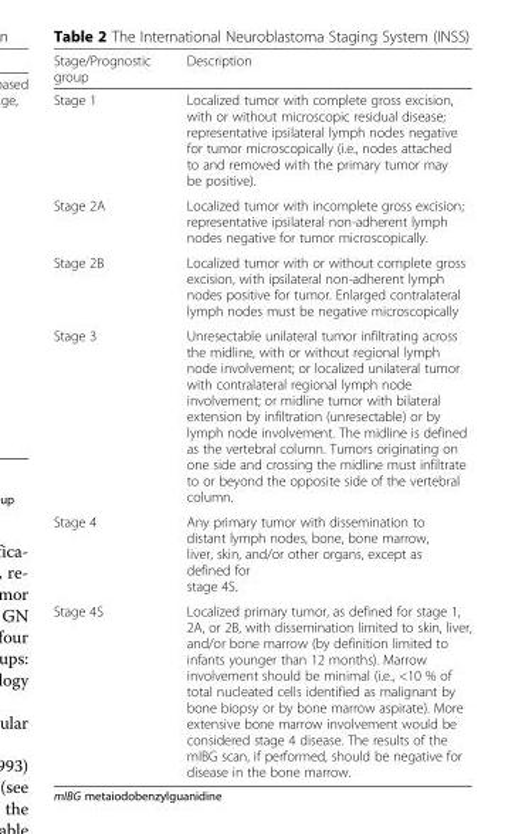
<table><thead><tr><td>Stage/Prognostic group</td><td>Description</td></tr></thead><tbody><tr><td>Stage 1</td><td>Localized tumor with complete gross excision, with or without microscopic residual disease; representative ipsilateral lymph nodes negative for tumor microscopically (i.e., nodes attached to and removed with the primary tumor may be positive).</td></tr><tr><td>Stage 2A</td><td>Localized tumor with incomplete gross excision; representative ipsilateral non-adherent lymph nodes negative for tumor microscopically.</td></tr><tr><td>Stage 2B</td><td>Localized tumor with or without complete gross excision, with ipsilateral non-adherent lymph nodes positive for tumor. Enlarged contralateral lymph nodes must be negative microscopically</td></tr><tr><td>Stage 3</td><td>Unresectable unilateral tumor infiltrating across the midline, with or without regional lymph node involvement; or localized unilateral tumor with contralateral regional lymph node involvement; or midline tumor with bilateral extension by infiltration (unresectable) or by lymph node involvement. The midline is defined as the vertebral column. Tumors originating on one side and crossing the midline must infiltrate to or beyond the opposite side of the vertebral column.</td></tr><tr><td>Stage 4</td><td>Any primary tumor with dissemination to distant lymph nodes, bone, bone marrow, liver, skin, and/or other organs, except as defined for stage 4S.</td></tr><tr><td>Stage 4S</td><td>Localized primary tumor, as defined for stage 1, 2A, or 2B, with dissemination limited to skin, liver, and/or bone marrow (by definition limited to infants younger than 12 months). Marrow involvement should be minimal (i.e., &lt;10 % of total nucleated cells identified as malignant by bone biopsy or by bone marrow aspirate). More extensive bone marrow involvement would be considered stage 4 disease. The results of the mIBG scan, if performed, should be negative for disease in the bone marrow.</td></tr></tbody></table>